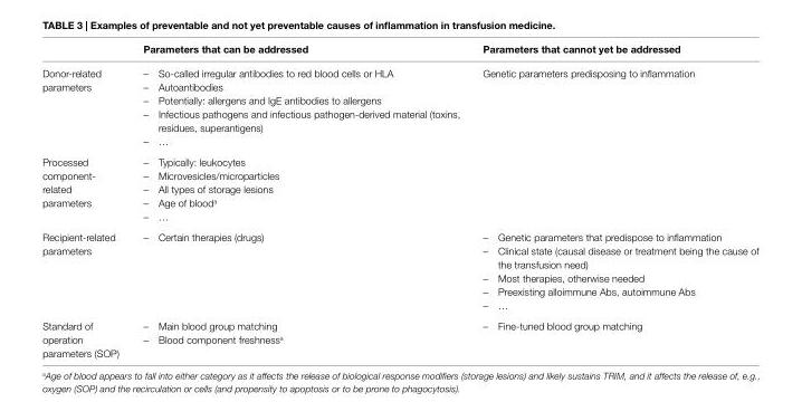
<table><thead><tr><td></td><td>Parameters that can be addressed</td><td>Parameters that cannot yet be addressed</td></tr></thead><tbody><tr><td>Donor-related parameters</td><td>– So-called irregular antibodies to red blood cells or HLA – Autoantibodies – Potentially: allergens and IgE antibodies to allergens – Infectious pathogens and infectious pathogen-derived material (toxins, residues, superantigens) – …</td><td>Genetic parameters predisposing to inflammation</td></tr><tr><td>Processed component- related parameters</td><td>– Typically: leukocytes – Microvesicles/microparticles – All types of storage lesions – Age of blood<sup>a</sup> – …</td><td></td></tr><tr><td>Recipient-related parameters</td><td>– Certain therapies (drugs)</td><td>– Genetic parameters that predispose to inflammation – Clinical state (causal disease or treatment being the cause of the transfusion need) – Most therapies, otherwise needed – Preexisting alloimmune Abs, autoimmune Abs – …</td></tr><tr><td>Standard of operation parameters (SOP)</td><td>– Main blood group matching – Blood component freshness<sup>a</sup></td><td>– Fine-tuned blood group matching</td></tr></tbody></table>